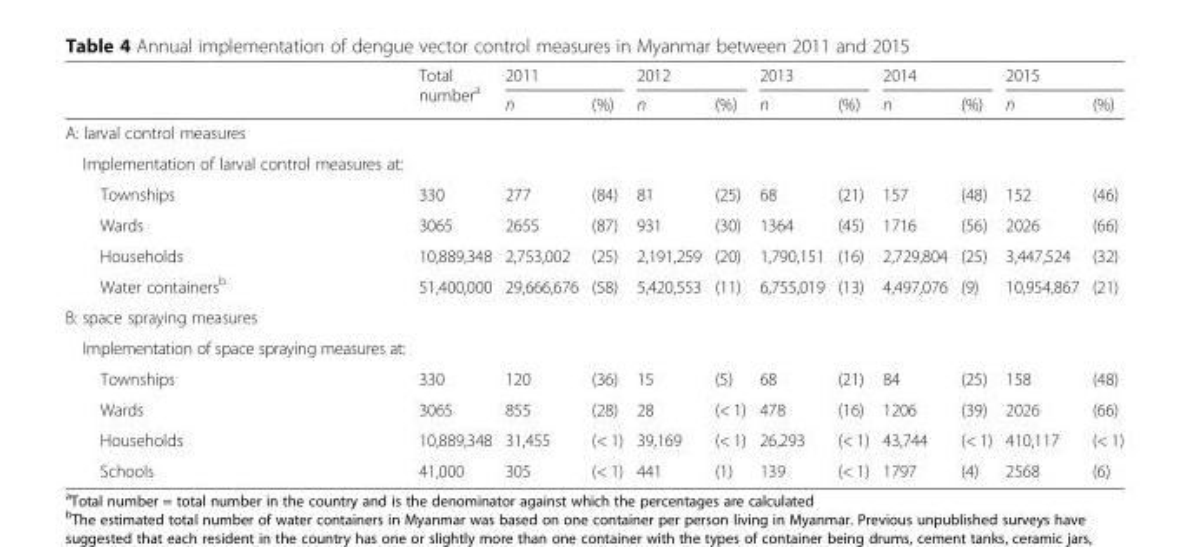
<table><thead><tr><td rowspan="2"></td><td rowspan="2">Total number<sup>a</sup></td><td colspan="2">2011</td><td colspan="2">2012</td><td colspan="2">2013</td><td colspan="2">2014</td><td colspan="2">2015</td></tr><tr><td>n</td><td>(%)</td><td>n</td><td>(%)</td><td>n</td><td>(%)</td><td>n</td><td>(%)</td><td>n</td><td>(%)</td></tr></thead><tbody><tr><td colspan="12">A: larval control measures</td></tr><tr><td colspan="12">Implementation of larval control measures at:</td></tr><tr><td>Townships</td><td>330</td><td>277</td><td>(84)</td><td>81</td><td>(25)</td><td>68</td><td>(21)</td><td>157</td><td>(48)</td><td>152</td><td>(46)</td></tr><tr><td>Wards</td><td>3065</td><td>2655</td><td>(87)</td><td>931</td><td>(30)</td><td>1364</td><td>(45)</td><td>1716</td><td>(56)</td><td>2026</td><td>(66)</td></tr><tr><td>Households</td><td>10,889,348</td><td>2,753,002</td><td>(25)</td><td>2,191,259</td><td>(20)</td><td>1,790,151</td><td>(16)</td><td>2,729,804</td><td>(25)</td><td>3,447,524</td><td>(32)</td></tr><tr><td>Water containers<sup>b</sup></td><td>51,400,000</td><td>29,666,676</td><td>(58)</td><td>5,420,553</td><td>(11)</td><td>6,755,019</td><td>(13)</td><td>4,497,076</td><td>(9)</td><td>10,954,867</td><td>(21)</td></tr><tr><td colspan="12">B: space spraying measures</td></tr><tr><td colspan="12">Implementation of space spraying measures at:</td></tr><tr><td>Townships</td><td>330</td><td>120</td><td>(36)</td><td>15</td><td>(5)</td><td>68</td><td>(21)</td><td>84</td><td>(25)</td><td>158</td><td>(48)</td></tr><tr><td>Wards</td><td>3065</td><td>855</td><td>(28)</td><td>28</td><td>(&lt; 1)</td><td>478</td><td>(16)</td><td>1206</td><td>(39)</td><td>2026</td><td>(66)</td></tr><tr><td>Households</td><td>10,889,348</td><td>31,455</td><td>(&lt; 1)</td><td>39,169</td><td>(&lt; 1)</td><td>26,293</td><td>(&lt; 1)</td><td>43,744</td><td>(&lt; 1)</td><td>410,117</td><td>(&lt; 1)</td></tr><tr><td>Schools</td><td>41,000</td><td>305</td><td>(&lt; 1)</td><td>441</td><td>(1)</td><td>139</td><td>(&lt; 1)</td><td>1797</td><td>(4)</td><td>2568</td><td>(6)</td></tr></tbody></table>